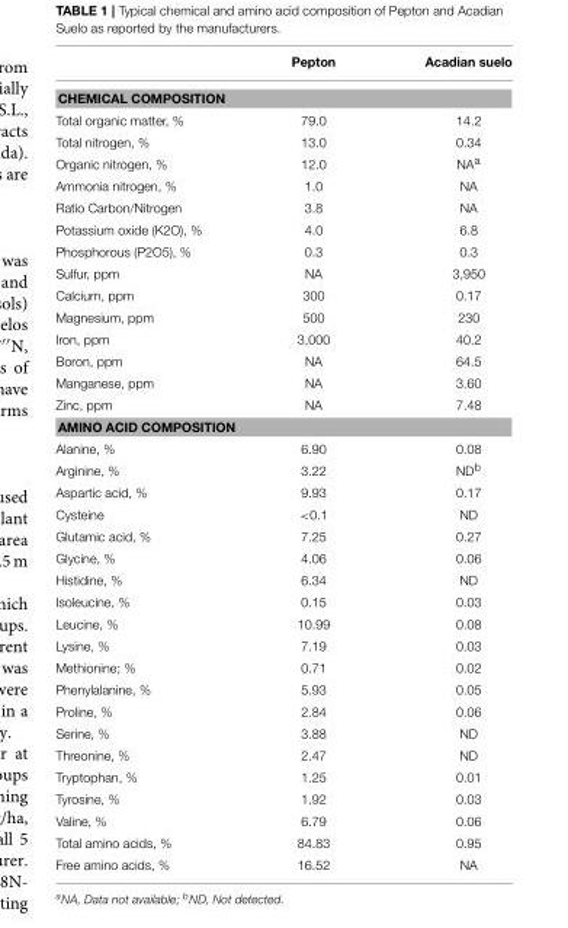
<table><thead><tr><td></td><td>Pepton</td><td>Acadian suelo</td></tr></thead><tbody><tr><td colspan="3">CHEMICAL COMPOSITION</td></tr><tr><td>Total organic matter, %</td><td>79.0</td><td>14.2</td></tr><tr><td>Total nitrogen, %</td><td>13.0</td><td>0.34</td></tr><tr><td>Organic nitrogen, %</td><td>12.0</td><td>NA<sup>a</sup></td></tr><tr><td>Ammonia nitrogen, %</td><td>1.0</td><td>NA</td></tr><tr><td>Ratio Carbon/Nitrogen</td><td>3.8</td><td>NA</td></tr><tr><td>Potassium oxide (K2O), %</td><td>4.0</td><td>6.8</td></tr><tr><td>Phosphorous (P2O5), %</td><td>0.3</td><td>0.3</td></tr><tr><td>Sulfur, ppm</td><td>NA</td><td>3,950</td></tr><tr><td>Calcium, ppm</td><td>300</td><td>0.17</td></tr><tr><td>Magnesium, ppm</td><td>500</td><td>230</td></tr><tr><td>Iron, ppm</td><td>3,000</td><td>40.2</td></tr><tr><td>Boron, ppm</td><td>NA</td><td>64.5</td></tr><tr><td>Manganese, ppm</td><td>NA</td><td>3.60</td></tr><tr><td>Zinc, ppm</td><td>NA</td><td>7.48</td></tr><tr><td colspan="3">AMINO ACID COMPOSITION</td></tr><tr><td>Alanine, %</td><td>6.90</td><td>0.08</td></tr><tr><td>Arginine, %</td><td>3.22</td><td>ND<sup>b</sup></td></tr><tr><td>Aspartic acid, %</td><td>9.93</td><td>0.17</td></tr><tr><td>Cysteine</td><td>&lt;0.1</td><td>ND</td></tr><tr><td>Glutamic acid, %</td><td>7.25</td><td>0.27</td></tr><tr><td>Glycine, %</td><td>4.06</td><td>0.06</td></tr><tr><td>Histidine, %</td><td>6.34</td><td>ND</td></tr><tr><td>Isoleucine, %</td><td>0.15</td><td>0.03</td></tr><tr><td>Leucine, %</td><td>10.99</td><td>0.08</td></tr><tr><td>Lysine, %</td><td>7.19</td><td>0.03</td></tr><tr><td>Methionine; %</td><td>0.71</td><td>0.02</td></tr><tr><td>Phenylalanine, %</td><td>5.93</td><td>0.05</td></tr><tr><td>Proline, %</td><td>2.84</td><td>0.06</td></tr><tr><td>Serine, %</td><td>3.88</td><td>ND</td></tr><tr><td>Threonine, %</td><td>2.47</td><td>ND</td></tr><tr><td>Tryptophan, %</td><td>1.25</td><td>0.01</td></tr><tr><td>Tyrosine, %</td><td>1.92</td><td>0.03</td></tr><tr><td>Valine, %</td><td>6.79</td><td>0.06</td></tr><tr><td>Total amino acids, %</td><td>84.83</td><td>0.95</td></tr><tr><td>Free amino acids, %</td><td>16.52</td><td>NA</td></tr></tbody></table>